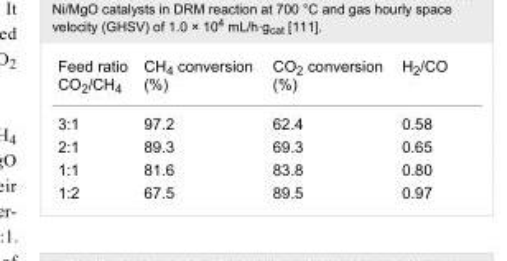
<table><tbody><tr><td>Feed ratio CO<sub>2</sub>/CH<sub>4</sub></td><td>CH<sub>4</sub> conversion (%)</td><td>CO<sub>2</sub> conversion (%)</td><td>H<sub>2</sub>/CO</td></tr><tr><td>3:1</td><td>97.2</td><td>62.4</td><td>0.58</td></tr><tr><td>2:1</td><td>89.3</td><td>69.3</td><td>0.65</td></tr><tr><td>1:1</td><td>81.6</td><td>83.8</td><td>0.80</td></tr><tr><td>1:2</td><td>67.5</td><td>89.5</td><td>0.97</td></tr></tbody></table>